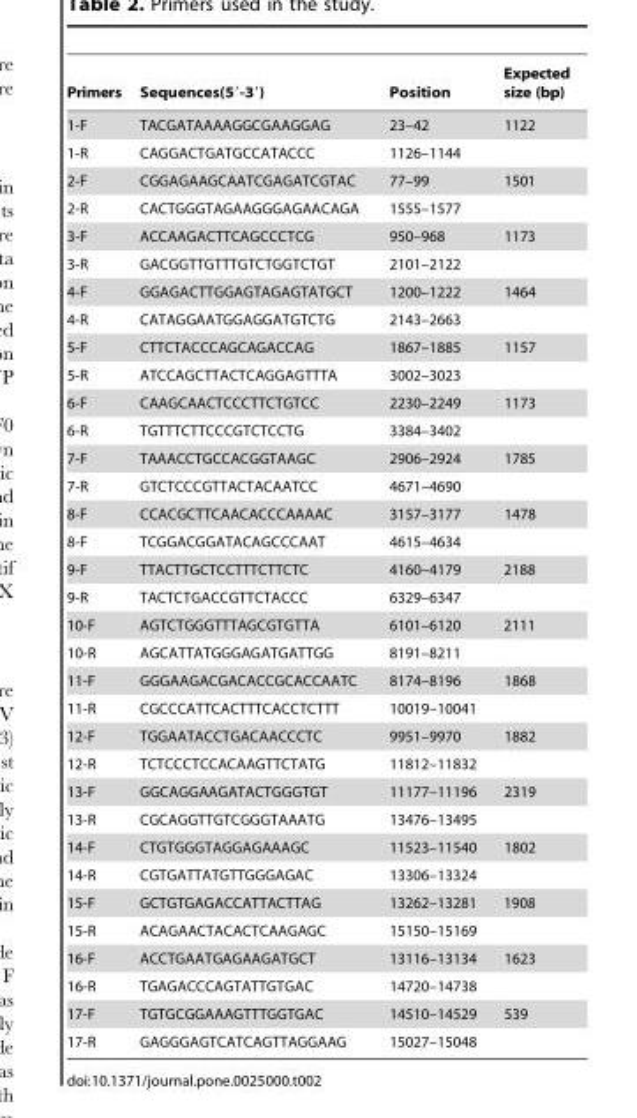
<table><thead><tr><td>Primers</td><td>Sequences(5′-3′)</td><td>Position</td><td>Expected size (bp)</td></tr></thead><tbody><tr><td>1-F</td><td>TACGATAAAAGGCGAAGGAG</td><td>23–42</td><td>1122</td></tr><tr><td>1-R</td><td>CAGGACTGATGCCATACCC</td><td>1126–1144</td><td></td></tr><tr><td>2-F</td><td>CGGAGAAGCAATCGAGATCGTAC</td><td>77–99</td><td>1501</td></tr><tr><td>2-R</td><td>CACTGGGTAGAAGGGAGAACAGA</td><td>1555–1577</td><td></td></tr><tr><td>3-F</td><td>ACCAAGACTTCAGCCCTCG</td><td>950–968</td><td>1173</td></tr><tr><td>3-R</td><td>GACGGTTGTTTGTCTGGTCTGT</td><td>2101–2122</td><td></td></tr><tr><td>4-F</td><td>GGAGACTTGGAGTAGAGTATGCT</td><td>1200–1222</td><td>1464</td></tr><tr><td>4-R</td><td>CATAGGAATGGAGGATGTCTG</td><td>2143–2663</td><td></td></tr><tr><td>5-F</td><td>CTTCTACCCAGCAGACCAG</td><td>1867–1885</td><td>1157</td></tr><tr><td>5-R</td><td>ATCCAGCTTACTCAGGAGTTTA</td><td>3002–3023</td><td></td></tr><tr><td>6-F</td><td>CAAGCAACTCCCTTCTGTCC</td><td>2230–2249</td><td>1173</td></tr><tr><td>6-R</td><td>TGTTTCTTCCCGTCTCCTG</td><td>3384–3402</td><td></td></tr><tr><td>7-F</td><td>TAAACCTGCCACGGTAAGC</td><td>2906–2924</td><td>1785</td></tr><tr><td>7-R</td><td>GTCTCCCGTTACTACAATCC</td><td>4671–4690</td><td></td></tr><tr><td>8-F</td><td>CCACGCTTCAACACCCAAAAC</td><td>3157–3177</td><td>1478</td></tr><tr><td>8-F</td><td>TCGGACGGATACAGCCCAAT</td><td>4615–4634</td><td></td></tr><tr><td>9-F</td><td>TTACTTGCTCCTTTCTTCTC</td><td>4160–4179</td><td>2188</td></tr><tr><td>9-R</td><td>TACTCTGACCGTTCTACCC</td><td>6329–6347</td><td></td></tr><tr><td>10-F</td><td>AGTCTGGGTTTAGCGTGTTA</td><td>6101–6120</td><td>2111</td></tr><tr><td>10-R</td><td>AGCATTATGGGAGATGATTGG</td><td>8191–8211</td><td></td></tr><tr><td>11-F</td><td>GGGAAGACGACACCGCACCAATC</td><td>8174–8196</td><td>1868</td></tr><tr><td>11-R</td><td>CGCCCATTCACTTTCACCTCTTT</td><td>10019–10041</td><td></td></tr><tr><td>12-F</td><td>TGGAATACCTGACAACCCTC</td><td>9951–9970</td><td>1882</td></tr><tr><td>12-R</td><td>TCTCCCTCCACAAGTTCTATG</td><td>11812–11832</td><td></td></tr><tr><td>13-F</td><td>GGCAGGAAGATACTGGGTGT</td><td>11177–11196</td><td>2319</td></tr><tr><td>13-R</td><td>CGCAGGTTGTCGGGTAAATG</td><td>13476–13495</td><td></td></tr><tr><td>14-F</td><td>CTGTGGGTAGGAGAAAGC</td><td>11523–11540</td><td>1802</td></tr><tr><td>14-R</td><td>CGTGATTATGTTGGGAGAC</td><td>13306–13324</td><td></td></tr><tr><td>15-F</td><td>GCTGTGAGACCATTACTTAG</td><td>13262–13281</td><td>1908</td></tr><tr><td>15-R</td><td>ACAGAACTACACTCAAGAGC</td><td>15150–15169</td><td></td></tr><tr><td>16-F</td><td>ACCTGAATGAGAAGATGCT</td><td>13116–13134</td><td>1623</td></tr><tr><td>16-R</td><td>TGAGACCCAGTATTGTGAC</td><td>14720–14738</td><td></td></tr><tr><td>17-F</td><td>TGTGCGGAAAGTTTGGTGAC</td><td>14510–14529</td><td>539</td></tr><tr><td>17-R</td><td>GAGGGAGTCATCAGTTAGGAAG</td><td>15027–15048</td><td></td></tr></tbody></table>